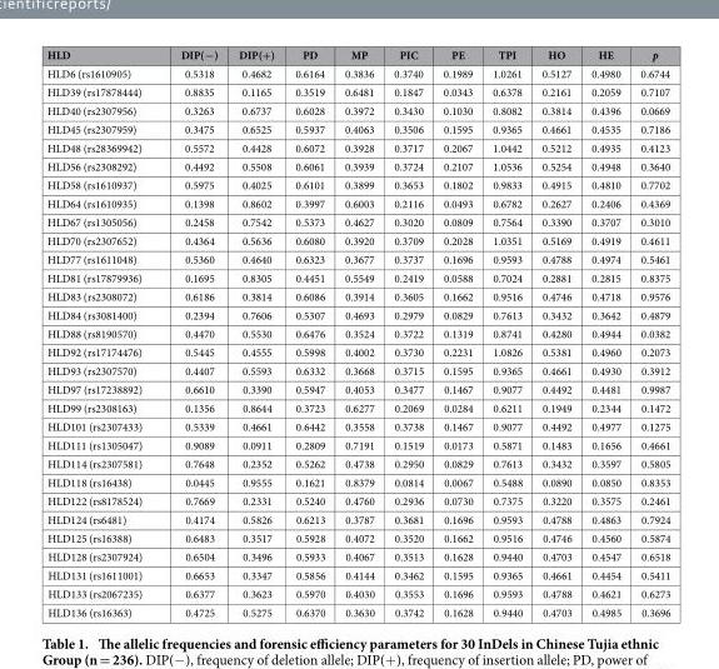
<table><thead><tr><td>HLD</td><td>DIP(−)</td><td>DIP(+)</td><td>PD</td><td>MP</td><td>PIC</td><td>PE</td><td>TPI</td><td>HO</td><td>HE</td><td>p</td></tr></thead><tbody><tr><td>HLD6 (rs1610905)</td><td>0.5318</td><td>0.4682</td><td>0.6164</td><td>0.3836</td><td>0.3740</td><td>0.1989</td><td>1.0261</td><td>0.5127</td><td>0.4980</td><td>0.6744</td></tr><tr><td>HLD39 (rs17878444)</td><td>0.8835</td><td>0.1165</td><td>0.3519</td><td>0.6481</td><td>0.1847</td><td>0.0343</td><td>0.6378</td><td>0.2161</td><td>0.2059</td><td>0.7107</td></tr><tr><td>HLD40 (rs2307956)</td><td>0.3263</td><td>0.6737</td><td>0.6028</td><td>0.3972</td><td>0.3430</td><td>0.1030</td><td>0.8082</td><td>0.3814</td><td>0.4396</td><td>0.0669</td></tr><tr><td>HLD45 (rs2307959)</td><td>0.3475</td><td>0.6525</td><td>0.5937</td><td>0.4063</td><td>0.3506</td><td>0.1595</td><td>0.9365</td><td>0.4661</td><td>0.4535</td><td>0.7186</td></tr><tr><td>HLD48 (rs28369942)</td><td>0.5572</td><td>0.4428</td><td>0.6072</td><td>0.3928</td><td>0.3717</td><td>0.2067</td><td>1.0442</td><td>0.5212</td><td>0.4935</td><td>0.4123</td></tr><tr><td>HLD56 (rs2308292)</td><td>0.4492</td><td>0.5508</td><td>0.6061</td><td>0.3939</td><td>0.3724</td><td>0.2107</td><td>1.0536</td><td>0.5254</td><td>0.4948</td><td>0.3640</td></tr><tr><td>HLD58 (rs1610937)</td><td>0.5975</td><td>0.4025</td><td>0.6101</td><td>0.3899</td><td>0.3653</td><td>0.1802</td><td>0.9833</td><td>0.4915</td><td>0.4810</td><td>0.7702</td></tr><tr><td>HLD64 (rs1610935)</td><td>0.1398</td><td>0.8602</td><td>0.3997</td><td>0.6003</td><td>0.2116</td><td>0.0493</td><td>0.6782</td><td>0.2627</td><td>0.2406</td><td>0.4369</td></tr><tr><td>HLD67 (rs1305056)</td><td>0.2458</td><td>0.7542</td><td>0.5373</td><td>0.4627</td><td>0.3020</td><td>0.0809</td><td>0.7564</td><td>0.3390</td><td>0.3707</td><td>0.3010</td></tr><tr><td>HLD70 (rs2307652)</td><td>0.4364</td><td>0.5636</td><td>0.6080</td><td>0.3920</td><td>0.3709</td><td>0.2028</td><td>1.0351</td><td>0.5169</td><td>0.4919</td><td>0.4611</td></tr><tr><td>HLD77 (rs1611048)</td><td>0.5360</td><td>0.4640</td><td>0.6323</td><td>0.3677</td><td>0.3737</td><td>0.1696</td><td>0.9593</td><td>0.4788</td><td>0.4974</td><td>0.5461</td></tr><tr><td>HLD81 (rs17879936)</td><td>0.1695</td><td>0.8305</td><td>0.4451</td><td>0.5549</td><td>0.2419</td><td>0.0588</td><td>0.7024</td><td>0.2881</td><td>0.2815</td><td>0.8375</td></tr><tr><td>HLD83 (rs2308072)</td><td>0.6186</td><td>0.3814</td><td>0.6086</td><td>0.3914</td><td>0.3605</td><td>0.1662</td><td>0.9516</td><td>0.4746</td><td>0.4718</td><td>0.9576</td></tr><tr><td>HLD84 (rs3081400)</td><td>0.2394</td><td>0.7606</td><td>0.5307</td><td>0.4693</td><td>0.2979</td><td>0.0829</td><td>0.7613</td><td>0.3432</td><td>0.3642</td><td>0.4879</td></tr><tr><td>HLD88 (rs8190570)</td><td>0.4470</td><td>0.5530</td><td>0.6476</td><td>0.3524</td><td>0.3722</td><td>0.1319</td><td>0.8741</td><td>0.4280</td><td>0.4944</td><td>0.0382</td></tr><tr><td>HLD92 (rs17174476)</td><td>0.5445</td><td>0.4555</td><td>0.5998</td><td>0.4002</td><td>0.3730</td><td>0.2231</td><td>1.0826</td><td>0.5381</td><td>0.4960</td><td>0.2073</td></tr><tr><td>HLD93 (rs2307570)</td><td>0.4407</td><td>0.5593</td><td>0.6332</td><td>0.3668</td><td>0.3715</td><td>0.1595</td><td>0.9365</td><td>0.4661</td><td>0.4930</td><td>0.3912</td></tr><tr><td>HLD97 (rs17238892)</td><td>0.6610</td><td>0.3390</td><td>0.5947</td><td>0.4053</td><td>0.3477</td><td>0.1467</td><td>0.9077</td><td>0.4492</td><td>0.4481</td><td>0.9987</td></tr><tr><td>HLD99 (rs2308163)</td><td>0.1356</td><td>0.8644</td><td>0.3723</td><td>0.6277</td><td>0.2069</td><td>0.0284</td><td>0.6211</td><td>0.1949</td><td>0.2344</td><td>0.1472</td></tr><tr><td>HLD101 (rs2307433)</td><td>0.5339</td><td>0.4661</td><td>0.6442</td><td>0.3558</td><td>0.3738</td><td>0.1467</td><td>0.9077</td><td>0.4492</td><td>0.4977</td><td>0.1275</td></tr><tr><td>HLD111 (rs1305047)</td><td>0.9089</td><td>0.0911</td><td>0.2809</td><td>0.7191</td><td>0.1519</td><td>0.0173</td><td>0.5871</td><td>0.1483</td><td>0.1656</td><td>0.4661</td></tr><tr><td>HLD114 (rs2307581)</td><td>0.7648</td><td>0.2352</td><td>0.5262</td><td>0.4738</td><td>0.2950</td><td>0.0829</td><td>0.7613</td><td>0.3432</td><td>0.3597</td><td>0.5805</td></tr><tr><td>HLD118 (rs16438)</td><td>0.0445</td><td>0.9555</td><td>0.1621</td><td>0.8379</td><td>0.0814</td><td>0.0067</td><td>0.5488</td><td>0.0890</td><td>0.0850</td><td>0.8353</td></tr><tr><td>HLD122 (rs8178524)</td><td>0.7669</td><td>0.2331</td><td>0.5240</td><td>0.4760</td><td>0.2936</td><td>0.0730</td><td>0.7375</td><td>0.3220</td><td>0.3575</td><td>0.2461</td></tr><tr><td>HLD124 (rs6481)</td><td>0.4174</td><td>0.5826</td><td>0.6213</td><td>0.3787</td><td>0.3681</td><td>0.1696</td><td>0.9593</td><td>0.4788</td><td>0.4863</td><td>0.7924</td></tr><tr><td>HLD125 (rs16388)</td><td>0.6483</td><td>0.3517</td><td>0.5928</td><td>0.4072</td><td>0.3520</td><td>0.1662</td><td>0.9516</td><td>0.4746</td><td>0.4560</td><td>0.5874</td></tr><tr><td>HLD128 (rs2307924)</td><td>0.6504</td><td>0.3496</td><td>0.5933</td><td>0.4067</td><td>0.3513</td><td>0.1628</td><td>0.9440</td><td>0.4703</td><td>0.4547</td><td>0.6518</td></tr><tr><td>HLD131 (rs1611001)</td><td>0.6653</td><td>0.3347</td><td>0.5856</td><td>0.4144</td><td>0.3462</td><td>0.1595</td><td>0.9365</td><td>0.4661</td><td>0.4454</td><td>0.5411</td></tr><tr><td>HLD133 (rs2067235)</td><td>0.6377</td><td>0.3623</td><td>0.5970</td><td>0.4030</td><td>0.3553</td><td>0.1696</td><td>0.9593</td><td>0.4788</td><td>0.4621</td><td>0.6273</td></tr><tr><td>HLD136 (rs16363)</td><td>0.4725</td><td>0.5275</td><td>0.6370</td><td>0.3630</td><td>0.3742</td><td>0.1628</td><td>0.9440</td><td>0.4703</td><td>0.4985</td><td>0.3696</td></tr></tbody></table>